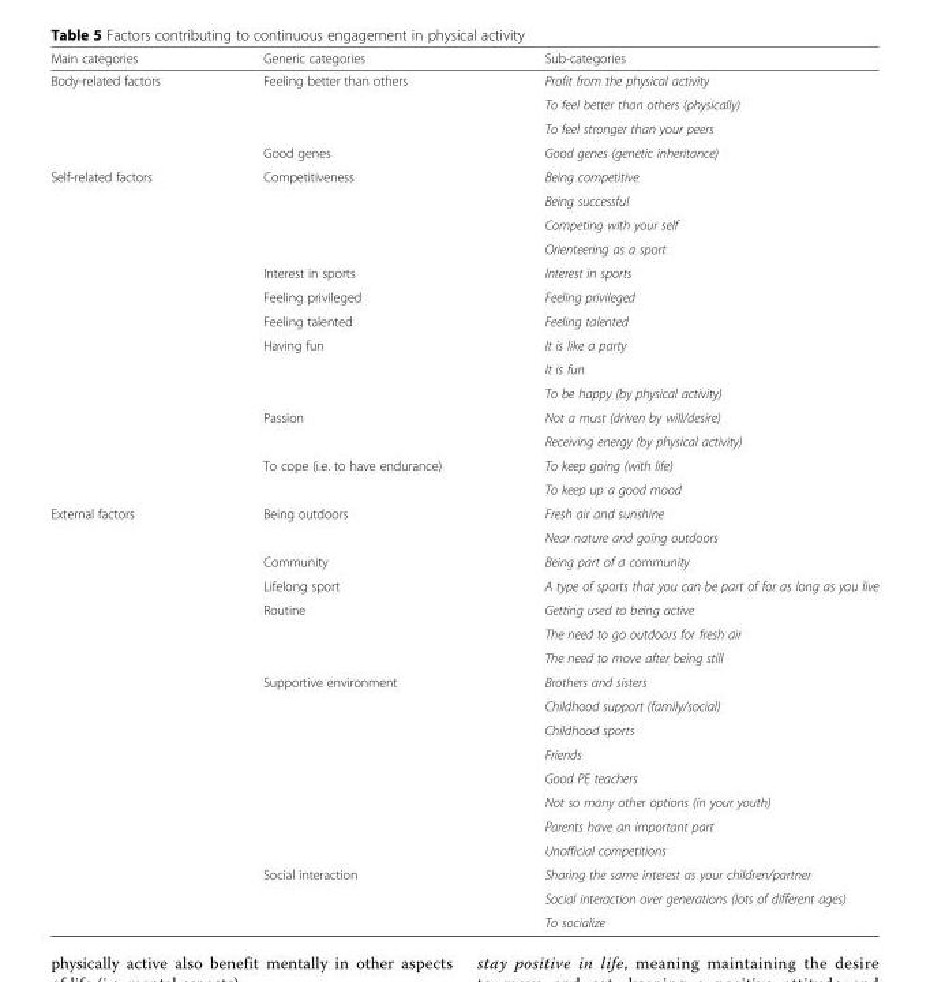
<table><thead><tr><td>Main categories</td><td>Generic categories</td><td>Sub-categories</td></tr></thead><tbody><tr><td rowspan="4">Body-related factors</td><td rowspan="3">Feeling better than others</td><td>Profit from the physical activity</td></tr><tr><td>To feel better than others (physically)</td></tr><tr><td>To feel stronger than your peers</td></tr><tr><td>Good genes</td><td>Good genes (genetic inheritance)</td></tr><tr><td rowspan="14">Self-related factors</td><td rowspan="4">Competitiveness</td><td>Being competitive</td></tr><tr><td>Being successful</td></tr><tr><td>Competing with your self</td></tr><tr><td>Orienteering as a sport</td></tr><tr><td>Interest in sports</td><td>Interest in sports</td></tr><tr><td>Feeling privileged</td><td>Feeling privileged</td></tr><tr><td>Feeling talented</td><td>Feeling talented</td></tr><tr><td rowspan="3">Having fun</td><td>It is like a party</td></tr><tr><td>It is fun</td></tr><tr><td>To be happy (by physical activity)</td></tr><tr><td rowspan="2">Passion</td><td>Not a must (driven by will/desire)</td></tr><tr><td>Receiving energy (by physical activity)</td></tr><tr><td rowspan="2">To cope (i.e. to have endurance)</td><td>To keep going (with life)</td></tr><tr><td>To keep up a good mood</td></tr><tr><td rowspan="18">External factors</td><td rowspan="2">Being outdoors</td><td>Fresh air and sunshine</td></tr><tr><td>Near nature and going outdoors</td></tr><tr><td>Community</td><td>Being part of a community</td></tr><tr><td>Lifelong sport</td><td>A type of sports that you can be part of for as long as you live</td></tr><tr><td rowspan="3">Routine</td><td>Getting used to being active</td></tr><tr><td>The need to go outdoors for fresh air</td></tr><tr><td>The need to move after being still</td></tr><tr><td rowspan="8">Supportive environment</td><td>Brothers and sisters</td></tr><tr><td>Childhood support (family/social)</td></tr><tr><td>Childhood sports</td></tr><tr><td>Friends</td></tr><tr><td>Good PE teachers</td></tr><tr><td>Not so many other options (in your youth)</td></tr><tr><td>Parents have an important part</td></tr><tr><td>Unofficial competitions</td></tr><tr><td rowspan="3">Social interaction</td><td>Sharing the same interest as your children/partner</td></tr><tr><td>Social interaction over generations (lots of different ages)</td></tr><tr><td>To socialize</td></tr></tbody></table>